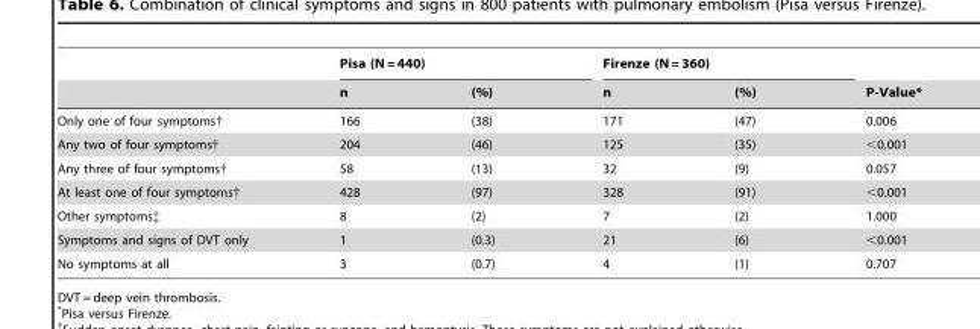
<table><thead><tr><td rowspan="2"></td><td colspan="2">Pisa (N = 440)</td><td colspan="2">Firenze (N = 360)</td><td rowspan="2">P-Value*</td></tr><tr><td>n</td><td>(%)</td><td>n</td><td>(%)</td></tr></thead><tbody><tr><td>Only one of four symptoms†</td><td>166</td><td>(38)</td><td>171</td><td>(47)</td><td>0.006</td></tr><tr><td>Any two of four symptoms†</td><td>204</td><td>(46)</td><td>125</td><td>(35)</td><td>&lt;0.001</td></tr><tr><td>Any three of four symptoms†</td><td>58</td><td>(13)</td><td>32</td><td>(9)</td><td>0.057</td></tr><tr><td>At least one of four symptoms†</td><td>428</td><td>(97)</td><td>328</td><td>(91)</td><td>&lt;0.001</td></tr><tr><td>Other symptoms‡</td><td>8</td><td>(2)</td><td>7</td><td>(2)</td><td>1.000</td></tr><tr><td>Symptoms and signs of DVT only</td><td>1</td><td>(0.3)</td><td>21</td><td>(6)</td><td>&lt;0.001</td></tr><tr><td>No symptoms at all</td><td>3</td><td>(0.7)</td><td>4</td><td>(1)</td><td>0.707</td></tr></tbody></table>